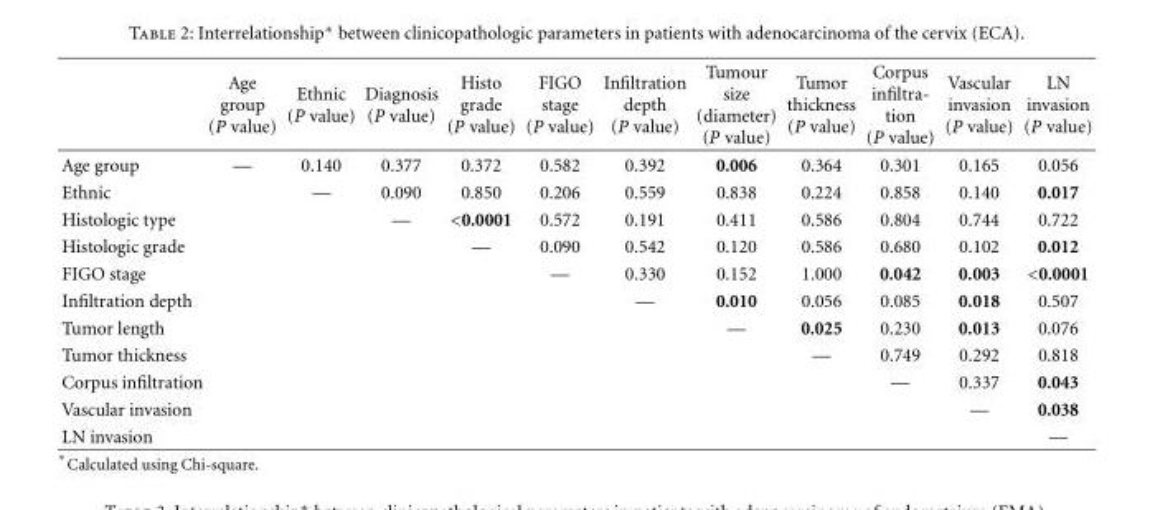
<table><thead><tr><td></td><td>Age group (P value)</td><td>Ethnic (P value)</td><td>Diagnosis (P value)</td><td>Histo grade (P value)</td><td>FIGO stage (P value)</td><td>Infiltration depth (P value)</td><td>Tumour size (diameter) (P value)</td><td>Tumor thickness (P value)</td><td>Corpus infiltra- tion (P value)</td><td>Vascular invasion (P value)</td><td>LN invasion (P value)</td></tr></thead><tbody><tr><td>Age group</td><td>—</td><td>0.140</td><td>0.377</td><td>0.372</td><td>0.582</td><td>0.392</td><td>0.006</td><td>0.364</td><td>0.301</td><td>0.165</td><td>0.056</td></tr><tr><td>Ethnic</td><td></td><td>—</td><td>0.090</td><td>0.850</td><td>0.206</td><td>0.559</td><td>0.838</td><td>0.224</td><td>0.858</td><td>0.140</td><td>0.017</td></tr><tr><td>Histologic type</td><td></td><td></td><td>—</td><td>&lt;0.0001</td><td>0.572</td><td>0.191</td><td>0.411</td><td>0.586</td><td>0.804</td><td>0.744</td><td>0.722</td></tr><tr><td>Histologic grade</td><td></td><td></td><td></td><td>—</td><td>0.090</td><td>0.542</td><td>0.120</td><td>0.586</td><td>0.680</td><td>0.102</td><td>0.012</td></tr><tr><td>FIGO stage</td><td></td><td></td><td></td><td></td><td>—</td><td>0.330</td><td>0.152</td><td>1.000</td><td>0.042</td><td>0.003</td><td>&lt;0.0001</td></tr><tr><td>Infiltration depth</td><td></td><td></td><td></td><td></td><td></td><td>—</td><td>0.010</td><td>0.056</td><td>0.085</td><td>0.018</td><td>0.507</td></tr><tr><td>Tumor length</td><td></td><td></td><td></td><td></td><td></td><td></td><td>—</td><td>0.025</td><td>0.230</td><td>0.013</td><td>0.076</td></tr><tr><td>Tumor thickness</td><td></td><td></td><td></td><td></td><td></td><td></td><td></td><td>—</td><td>0.749</td><td>0.292</td><td>0.818</td></tr><tr><td>Corpus infiltration</td><td></td><td></td><td></td><td></td><td></td><td></td><td></td><td></td><td>—</td><td>0.337</td><td>0.043</td></tr><tr><td>Vascular invasion</td><td></td><td></td><td></td><td></td><td></td><td></td><td></td><td></td><td></td><td>—</td><td>0.038</td></tr><tr><td>LN invasion</td><td></td><td></td><td></td><td></td><td></td><td></td><td></td><td></td><td></td><td></td><td>—</td></tr></tbody></table>